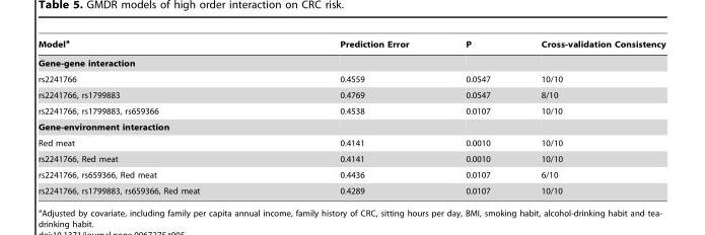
<table><thead><tr><td>Model<sup>a</sup></td><td>Prediction Error</td><td>P</td><td>Cross-validation Consistency</td></tr></thead><tbody><tr><td colspan="4">Gene-gene interaction</td></tr><tr><td>rs2241766</td><td>0.4559</td><td>0.0547</td><td>10/10</td></tr><tr><td>rs2241766, rs1799883</td><td>0.4769</td><td>0.0547</td><td>8/10</td></tr><tr><td>rs2241766, rs1799883, rs659366</td><td>0.4538</td><td>0.0107</td><td>10/10</td></tr><tr><td colspan="4">Gene-environment interaction</td></tr><tr><td>Red meat</td><td>0.4141</td><td>0.0010</td><td>10/10</td></tr><tr><td>rs2241766, Red meat</td><td>0.4141</td><td>0.0010</td><td>10/10</td></tr><tr><td>rs2241766, rs659366, Red meat</td><td>0.4436</td><td>0.0107</td><td>6/10</td></tr><tr><td>rs2241766, rs1799883, rs659366, Red meat</td><td>0.4289</td><td>0.0107</td><td>10/10</td></tr></tbody></table>